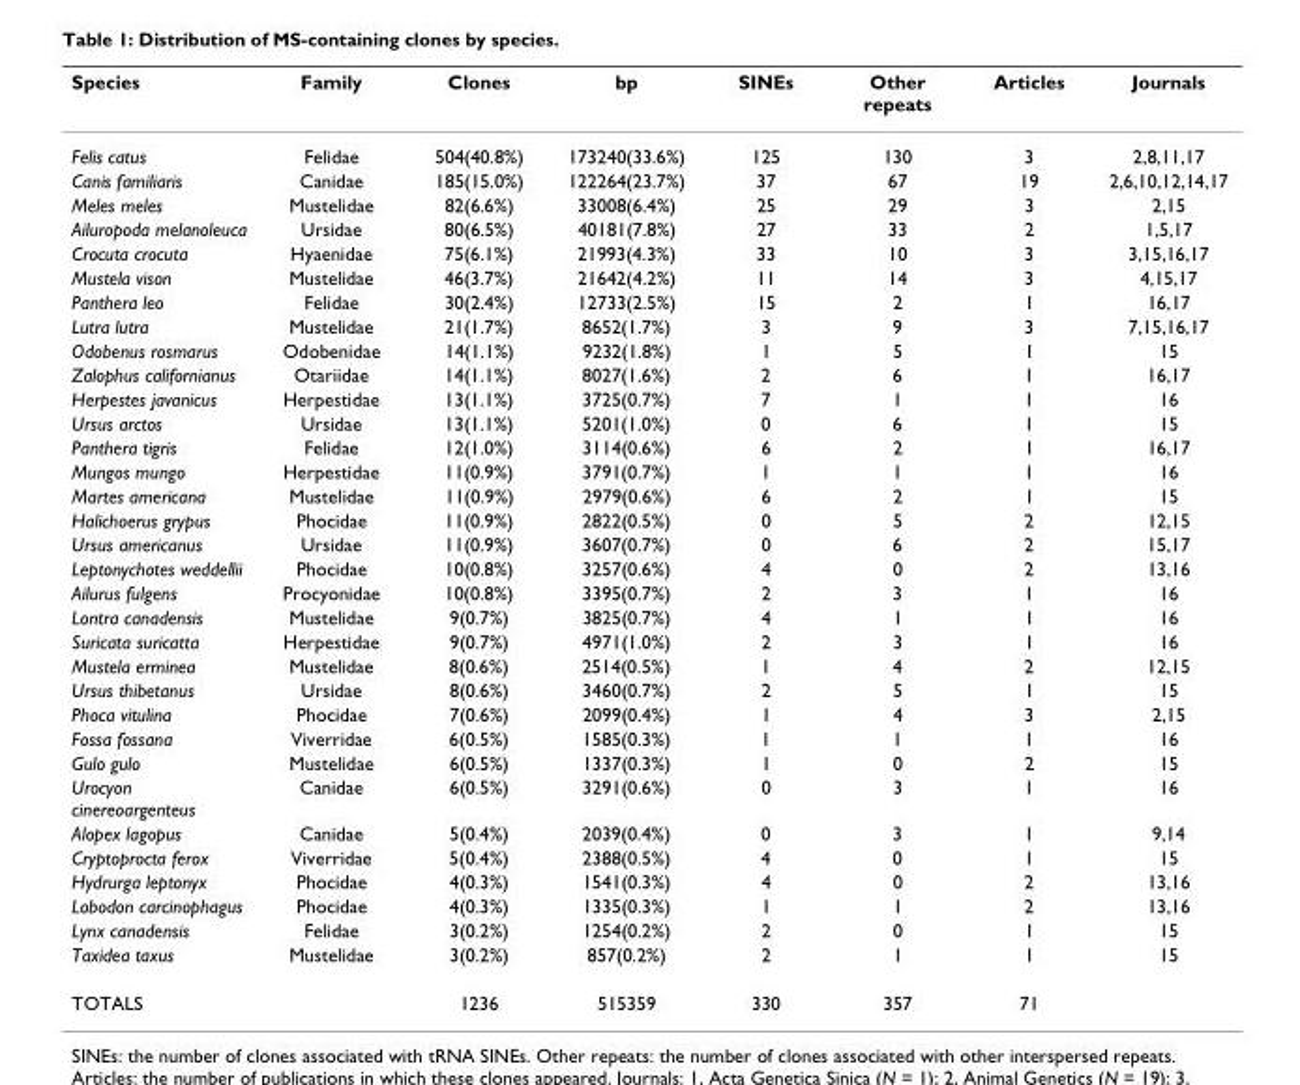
<table><thead><tr><td>Species</td><td>Family</td><td>Clones</td><td>bp</td><td>SINEs</td><td>Other repeats</td><td>Articles</td><td>Journals</td></tr></thead><tbody><tr><td>Felis catus</td><td>Felidae</td><td>504(40.8%)</td><td>173240(33.6%)</td><td>125</td><td>130</td><td>3</td><td>2,8,11,17</td></tr><tr><td>Canis familiaris</td><td>Canidae</td><td>185(15.0%)</td><td>122264(23.7%)</td><td>37</td><td>67</td><td>19</td><td>2,6,10,12,14,17</td></tr><tr><td>Meles meles</td><td>Mustelidae</td><td>82(6.6%)</td><td>33008(6.4%)</td><td>25</td><td>29</td><td>3</td><td>2,15</td></tr><tr><td>Ailuropoda melanoleuca</td><td>Ursidae</td><td>80(6.5%)</td><td>40181(7.8%)</td><td>27</td><td>33</td><td>2</td><td>1,5,17</td></tr><tr><td>Crocuta crocuta</td><td>Hyaenidae</td><td>75(6.1%)</td><td>21993(4.3%)</td><td>33</td><td>10</td><td>3</td><td>3,15,16,17</td></tr><tr><td>Mustela vison</td><td>Mustelidae</td><td>46(3.7%)</td><td>21642(4.2%)</td><td>11</td><td>14</td><td>3</td><td>4,15,17</td></tr><tr><td>Panthera leo</td><td>Felidae</td><td>30(2.4%)</td><td>12733(2.5%)</td><td>15</td><td>2</td><td>1</td><td>16,17</td></tr><tr><td>Lutra lutra</td><td>Mustelidae</td><td>21(1.7%)</td><td>8652(1.7%)</td><td>3</td><td>9</td><td>3</td><td>7,15,16,17</td></tr><tr><td>Odobenus rosmarus</td><td>Odobenidae</td><td>14(1.1%)</td><td>9232(1.8%)</td><td>1</td><td>5</td><td>1</td><td>15</td></tr><tr><td>Zalophus californianus</td><td>Otariidae</td><td>14(1.1%)</td><td>8027(1.6%)</td><td>2</td><td>6</td><td>1</td><td>16,17</td></tr><tr><td>Herpestes javanicus</td><td>Herpestidae</td><td>13(1.1%)</td><td>3725(0.7%)</td><td>7</td><td>1</td><td>1</td><td>16</td></tr><tr><td>Ursus arctos</td><td>Ursidae</td><td>13(1.1%)</td><td>5201(1.0%)</td><td>0</td><td>6</td><td>1</td><td>15</td></tr><tr><td>Panthera tigris</td><td>Felidae</td><td>12(1.0%)</td><td>3114(0.6%)</td><td>6</td><td>2</td><td>1</td><td>16,17</td></tr><tr><td>Mungos mungo</td><td>Herpestidae</td><td>11(0.9%)</td><td>3791(0.7%)</td><td>1</td><td>1</td><td>1</td><td>16</td></tr><tr><td>Martes americana</td><td>Mustelidae</td><td>11(0.9%)</td><td>2979(0.6%)</td><td>6</td><td>2</td><td>1</td><td>15</td></tr><tr><td>Halichoerus grypus</td><td>Phocidae</td><td>11(0.9%)</td><td>2822(0.5%)</td><td>0</td><td>5</td><td>2</td><td>12,15</td></tr><tr><td>Ursus americanus</td><td>Ursidae</td><td>11(0.9%)</td><td>3607(0.7%)</td><td>0</td><td>6</td><td>2</td><td>15,17</td></tr><tr><td>Leptonychotes weddellii</td><td>Phocidae</td><td>10(0.8%)</td><td>3257(0.6%)</td><td>4</td><td>0</td><td>2</td><td>13,16</td></tr><tr><td>Ailurus fulgens</td><td>Procyonidae</td><td>10(0.8%)</td><td>3395(0.7%)</td><td>2</td><td>3</td><td>1</td><td>16</td></tr><tr><td>Lontra canadensis</td><td>Mustelidae</td><td>9(0.7%)</td><td>3825(0.7%)</td><td>4</td><td>1</td><td>1</td><td>16</td></tr><tr><td>Suricata suricatta</td><td>Herpestidae</td><td>9(0.7%)</td><td>4971(1.0%)</td><td>2</td><td>3</td><td>1</td><td>16</td></tr><tr><td>Mustela erminea</td><td>Mustelidae</td><td>8(0.6%)</td><td>2514(0.5%)</td><td>1</td><td>4</td><td>2</td><td>12,15</td></tr><tr><td>Ursus thibetanus</td><td>Ursidae</td><td>8(0.6%)</td><td>3460(0.7%)</td><td>2</td><td>5</td><td>1</td><td>15</td></tr><tr><td>Phoca vitulina</td><td>Phocidae</td><td>7(0.6%)</td><td>2099(0.4%)</td><td>1</td><td>4</td><td>3</td><td>2,15</td></tr><tr><td>Fossa fossana</td><td>Viverridae</td><td>6(0.5%)</td><td>1585(0.3%)</td><td>1</td><td>1</td><td>1</td><td>16</td></tr><tr><td>Gulo gulo</td><td>Mustelidae</td><td>6(0.5%)</td><td>1337(0.3%)</td><td>1</td><td>0</td><td>2</td><td>15</td></tr><tr><td>Urocyon cinereoargenteus</td><td>Canidae</td><td>6(0.5%)</td><td>3291(0.6%)</td><td>0</td><td>3</td><td>1</td><td>16</td></tr><tr><td>Alopex lagopus</td><td>Canidae</td><td>5(0.4%)</td><td>2039(0.4%)</td><td>0</td><td>3</td><td>1</td><td>9,14</td></tr><tr><td>Cryptoprocta ferox</td><td>Viverridae</td><td>5(0.4%)</td><td>2388(0.5%)</td><td>4</td><td>0</td><td>1</td><td>15</td></tr><tr><td>Hydrurga leptonyx</td><td>Phocidae</td><td>4(0.3%)</td><td>1541(0.3%)</td><td>4</td><td>0</td><td>2</td><td>13,16</td></tr><tr><td>Lobodon carcinophagus</td><td>Phocidae</td><td>4(0.3%)</td><td>1335(0.3%)</td><td>1</td><td>1</td><td>2</td><td>13,16</td></tr><tr><td>Lynx canadensis</td><td>Felidae</td><td>3(0.2%)</td><td>1254(0.2%)</td><td>2</td><td>0</td><td>1</td><td>15</td></tr><tr><td>Taxidea taxus</td><td>Mustelidae</td><td>3(0.2%)</td><td>857(0.2%)</td><td>2</td><td>1</td><td>1</td><td>15</td></tr><tr><td>TOTALS</td><td></td><td>1236</td><td>515359</td><td>330</td><td>357</td><td>71</td><td></td></tr></tbody></table>